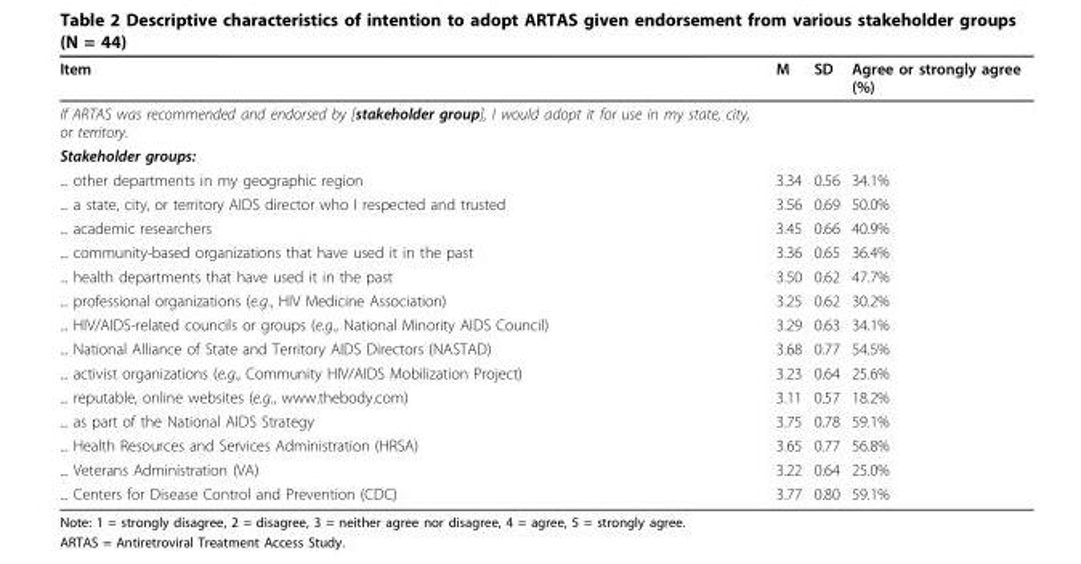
<table><thead><tr><td>Item</td><td>M</td><td>SD</td><td>Agree or strongly agree (%)</td></tr></thead><tbody><tr><td colspan="4">If ARTAS was recommended and endorsed by [stakeholder group], I would adopt it for use in my state, city, or territory.</td></tr><tr><td colspan="4">Stakeholder groups:</td></tr><tr><td>... other departments in my geographic region</td><td>3.34</td><td>0.56</td><td>34.1%</td></tr><tr><td>... a state, city, or territory AIDS director who I respected and trusted</td><td>3.56</td><td>0.69</td><td>50.0%</td></tr><tr><td>... academic researchers</td><td>3.45</td><td>0.66</td><td>40.9%</td></tr><tr><td>... community-based organizations that have used it in the past</td><td>3.36</td><td>0.65</td><td>36.4%</td></tr><tr><td>... health departments that have used it in the past</td><td>3.50</td><td>0.62</td><td>47.7%</td></tr><tr><td>... professional organizations (e.g., HIV Medicine Association)</td><td>3.25</td><td>0.62</td><td>30.2%</td></tr><tr><td>... HIV/AIDS-related councils or groups (e.g., National Minority AIDS Council)</td><td>3.29</td><td>0.63</td><td>34.1%</td></tr><tr><td>... National Alliance of State and Territory AIDS Directors (NASTAD)</td><td>3.68</td><td>0.77</td><td>54.5%</td></tr><tr><td>... activist organizations (e.g., Community HIV/AIDS Mobilization Project)</td><td>3.23</td><td>0.64</td><td>25.6%</td></tr><tr><td>... reputable, online websites (e.g., www.thebody.com)</td><td>3.11</td><td>0.57</td><td>18.2%</td></tr><tr><td>... as part of the National AIDS Strategy</td><td>3.75</td><td>0.78</td><td>59.1%</td></tr><tr><td>... Health Resources and Services Administration (HRSA)</td><td>3.65</td><td>0.77</td><td>56.8%</td></tr><tr><td>... Veterans Administration (VA)</td><td>3.22</td><td>0.64</td><td>25.0%</td></tr><tr><td>... Centers for Disease Control and Prevention (CDC)</td><td>3.77</td><td>0.80</td><td>59.1%</td></tr></tbody></table>